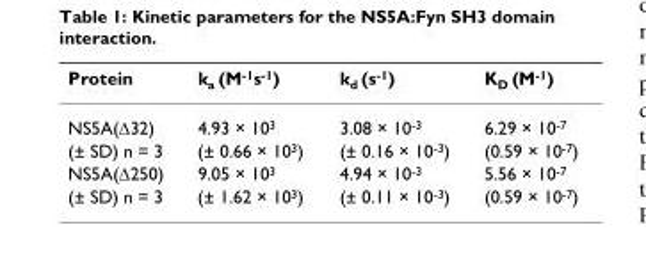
<table><thead><tr><td>Protein</td><td>k<sub>a</sub> (M<sup>-1</sup>s<sup>-1</sup>)</td><td>k<sub>d</sub> (s<sup>-1</sup>)</td><td>K<sub>D</sub> (M<sup>-1</sup>)</td></tr></thead><tbody><tr><td>NS5A(Δ32)</td><td>4.93 × 10<sup>3</sup></td><td>3.08 × 10<sup>-3</sup></td><td>6.29 × 10<sup>-7</sup></td></tr><tr><td>(± SD) n = 3</td><td>(± 0.66 × 10<sup>3</sup>)</td><td>(± 0.16 × 10<sup>-3</sup>)</td><td>(0.59 × 10<sup>-7</sup>)</td></tr><tr><td>NS5A(Δ250)</td><td>9.05 × 10<sup>3</sup></td><td>4.94 × 10<sup>-3</sup></td><td>5.56 × 10<sup>-7</sup></td></tr><tr><td>(± SD) n = 3</td><td>(± 1.62 × 10<sup>3</sup>)</td><td>(± 0.11 × 10<sup>-3</sup>)</td><td>(0.59 × 10<sup>-7</sup>)</td></tr></tbody></table>